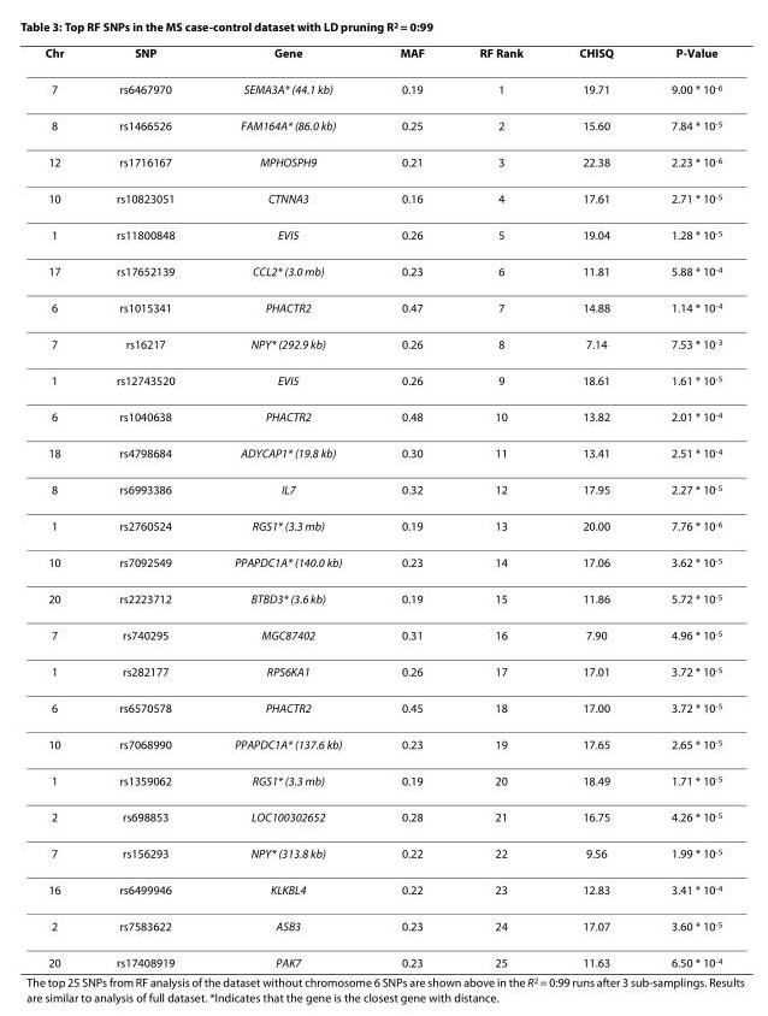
<table><thead><tr><td>Chr</td><td>SNP</td><td>Gene</td><td>MAF</td><td>RF Rank</td><td>CHISQ</td><td>P-Value</td></tr></thead><tbody><tr><td>7</td><td>rs6467970</td><td>SEMA3A* (44.1 kb)</td><td>0.19</td><td>1</td><td>19.71</td><td>9.00 * 10<sup>-6</sup></td></tr><tr><td>8</td><td>rs1466526</td><td>FAM164A* (86.0 kb)</td><td>0.25</td><td>2</td><td>15.60</td><td>7.84 * 10<sup>-5</sup></td></tr><tr><td>12</td><td>rs1716167</td><td>MPHOSPH9</td><td>0.21</td><td>3</td><td>22.38</td><td>2.23 * 10<sup>-6</sup></td></tr><tr><td>10</td><td>rs10823051</td><td>CTNNA3</td><td>0.16</td><td>4</td><td>17.61</td><td>2.71 * 10<sup>-5</sup></td></tr><tr><td>1</td><td>rs11800848</td><td>EVI5</td><td>0.26</td><td>5</td><td>19.04</td><td>1.28 * 10<sup>-5</sup></td></tr><tr><td>17</td><td>rs17652139</td><td>CCL2* (3.0 mb)</td><td>0.23</td><td>6</td><td>11.81</td><td>5.88 * 10<sup>-4</sup></td></tr><tr><td>6</td><td>rs1015341</td><td>PHACTR2</td><td>0.47</td><td>7</td><td>14.88</td><td>1.14 * 10<sup>-4</sup></td></tr><tr><td>7</td><td>rs16217</td><td>NPY* (292.9 kb)</td><td>0.26</td><td>8</td><td>7.14</td><td>7.53 * 10<sup>-3</sup></td></tr><tr><td>1</td><td>rs12743520</td><td>EVI5</td><td>0.26</td><td>9</td><td>18.61</td><td>1.61 * 10<sup>-5</sup></td></tr><tr><td>6</td><td>rs1040638</td><td>PHACTR2</td><td>0.48</td><td>10</td><td>13.82</td><td>2.01 * 10<sup>-4</sup></td></tr><tr><td>18</td><td>rs4798684</td><td>ADYCAP1* (19.8 kb)</td><td>0.30</td><td>11</td><td>13.41</td><td>2.51 * 10<sup>-4</sup></td></tr><tr><td>8</td><td>rs6993386</td><td>IL7</td><td>0.32</td><td>12</td><td>17.95</td><td>2.27 * 10<sup>-5</sup></td></tr><tr><td>1</td><td>rs2760524</td><td>RGS1* (3.3 mb)</td><td>0.19</td><td>13</td><td>20.00</td><td>7.76 * 10<sup>-6</sup></td></tr><tr><td>10</td><td>rs7092549</td><td>PPAPDC1A* (140.0 kb)</td><td>0.23</td><td>14</td><td>17.06</td><td>3.62 * 10<sup>-5</sup></td></tr><tr><td>20</td><td>rs2223712</td><td>BTBD3* (3.6 kb)</td><td>0.19</td><td>15</td><td>11.86</td><td>5.72 * 10<sup>-5</sup></td></tr><tr><td>7</td><td>rs740295</td><td>MGC87402</td><td>0.31</td><td>16</td><td>7.90</td><td>4.96 * 10<sup>-5</sup></td></tr><tr><td>1</td><td>rs282177</td><td>RPS6KA1</td><td>0.26</td><td>17</td><td>17.01</td><td>3.72 * 10<sup>-5</sup></td></tr><tr><td>6</td><td>rs6570578</td><td>PHACTR2</td><td>0.45</td><td>18</td><td>17.00</td><td>3.72 * 10<sup>-5</sup></td></tr><tr><td>10</td><td>rs7068990</td><td>PPAPDC1A* (137.6 kb)</td><td>0.23</td><td>19</td><td>17.65</td><td>2.65 * 10<sup>-5</sup></td></tr><tr><td>1</td><td>rs1359062</td><td>RGS1* (3.3 mb)</td><td>0.19</td><td>20</td><td>18.49</td><td>1.71 * 10<sup>-5</sup></td></tr><tr><td>2</td><td>rs698853</td><td>LOC100302652</td><td>0.28</td><td>21</td><td>16.75</td><td>4.26 * 10<sup>-5</sup></td></tr><tr><td>7</td><td>rs156293</td><td>NPY* (313.8 kb)</td><td>0.22</td><td>22</td><td>9.56</td><td>1.99 * 10<sup>-5</sup></td></tr><tr><td>16</td><td>rs6499946</td><td>KLKBL4</td><td>0.22</td><td>23</td><td>12.83</td><td>3.41 * 10<sup>-4</sup></td></tr><tr><td>2</td><td>rs7583622</td><td>ASB3</td><td>0.23</td><td>24</td><td>17.07</td><td>3.60 * 10<sup>-5</sup></td></tr><tr><td>20</td><td>rs17408919</td><td>PAK7</td><td>0.23</td><td>25</td><td>11.63</td><td>6.50 * 10<sup>-4</sup></td></tr></tbody></table>